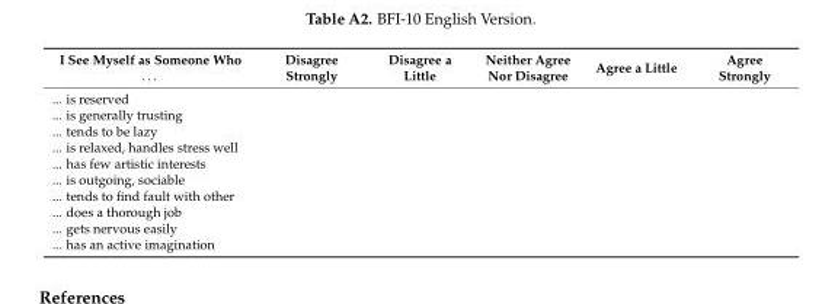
<table><thead><tr><td>I See Myself as Someone Who . . .</td><td>Disagree Strongly</td><td>Disagree a Little</td><td>Neither Agree Nor Disagree</td><td>Agree a Little</td><td>Agree Strongly</td></tr></thead><tbody><tr><td colspan="6">... is reserved</td></tr><tr><td colspan="6">... is generally trusting</td></tr><tr><td colspan="6">... tends to be lazy</td></tr><tr><td colspan="6">... is relaxed, handles stress well</td></tr><tr><td colspan="6">... has few artistic interests</td></tr><tr><td colspan="6">... is outgoing, sociable</td></tr><tr><td colspan="6">... tends to find fault with other</td></tr><tr><td colspan="6">... does a thorough job</td></tr><tr><td colspan="6">... gets nervous easily</td></tr><tr><td>... has an active imagination</td><td></td><td></td><td></td><td></td><td></td></tr></tbody></table>